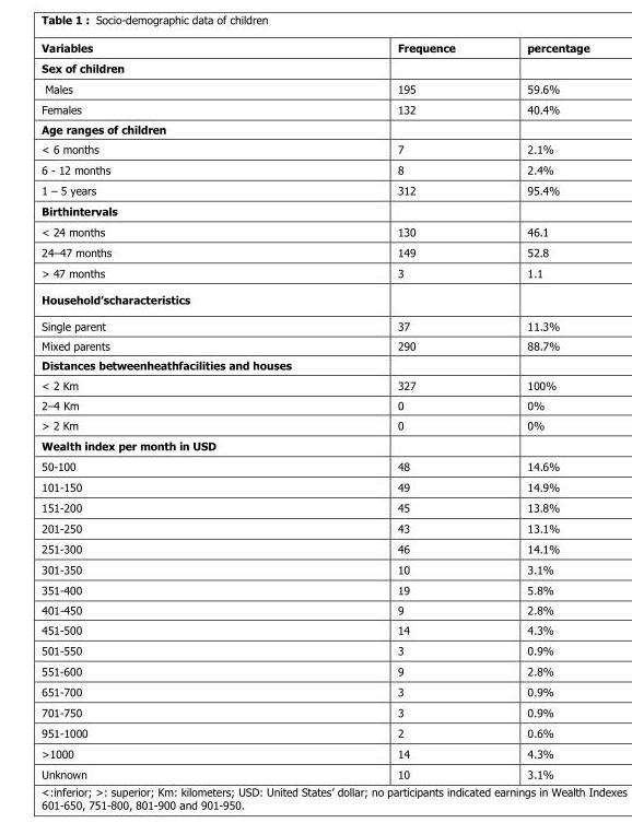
<table><thead><tr><td>Variables</td><td>Frequence</td><td>percentage</td></tr></thead><tbody><tr><td colspan="3">Sex of children</td></tr><tr><td>Males</td><td>195</td><td>59.6%</td></tr><tr><td>Females</td><td>132</td><td>40.4%</td></tr><tr><td colspan="3">Age ranges of children</td></tr><tr><td>&lt; 6 months</td><td>7</td><td>2.1%</td></tr><tr><td>6 - 12 months</td><td>8</td><td>2.4%</td></tr><tr><td>1 – 5 years</td><td>312</td><td>95.4%</td></tr><tr><td colspan="3">Birthintervals</td></tr><tr><td>&lt; 24 months</td><td>130</td><td>46.1</td></tr><tr><td>24–47 months</td><td>149</td><td>52.8</td></tr><tr><td>&gt; 47 months</td><td>3</td><td>1.1</td></tr><tr><td colspan="3">Household’scharacteristics</td></tr><tr><td>Single parent</td><td>37</td><td>11.3%</td></tr><tr><td>Mixed parents</td><td>290</td><td>88.7%</td></tr><tr><td colspan="3">Distances betweenheathfacilities and houses</td></tr><tr><td>&lt; 2 Km</td><td>327</td><td>100%</td></tr><tr><td>2–4 Km</td><td>0</td><td>0%</td></tr><tr><td>&gt; 2 Km</td><td>0</td><td>0%</td></tr><tr><td colspan="3">Wealth index per month in USD</td></tr><tr><td>50-100</td><td>48</td><td>14.6%</td></tr><tr><td>101-150</td><td>49</td><td>14.9%</td></tr><tr><td>151-200</td><td>45</td><td>13.8%</td></tr><tr><td>201-250</td><td>43</td><td>13.1%</td></tr><tr><td>251-300</td><td>46</td><td>14.1%</td></tr><tr><td>301-350</td><td>10</td><td>3.1%</td></tr><tr><td>351-400</td><td>19</td><td>5.8%</td></tr><tr><td>401-450</td><td>9</td><td>2.8%</td></tr><tr><td>451-500</td><td>14</td><td>4.3%</td></tr><tr><td>501-550</td><td>3</td><td>0.9%</td></tr><tr><td>551-600</td><td>9</td><td>2.8%</td></tr><tr><td>651-700</td><td>3</td><td>0.9%</td></tr><tr><td>701-750</td><td>3</td><td>0.9%</td></tr><tr><td>951-1000</td><td>2</td><td>0.6%</td></tr><tr><td>&gt;1000</td><td>14</td><td>4.3%</td></tr><tr><td>Unknown</td><td>10</td><td>3.1%</td></tr></tbody></table>